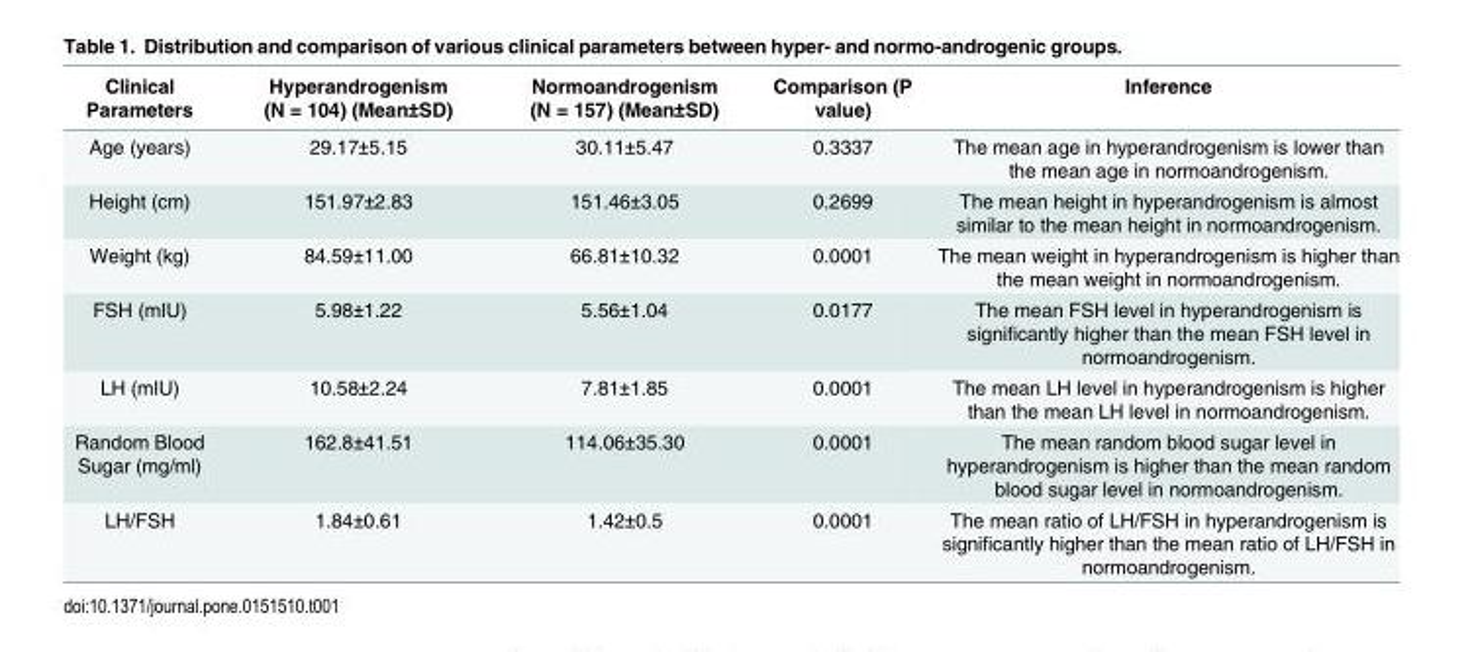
<table><thead><tr><td>Clinical Parameters</td><td>Hyperandrogenism (N = 104) (Mean±SD)</td><td>Normoandrogenism (N = 157) (Mean±SD)</td><td>Comparison (P value)</td><td>Inference</td></tr></thead><tbody><tr><td>Age (years)</td><td>29.17±5.15</td><td>30.11±5.47</td><td>0.3337</td><td>The mean age in hyperandrogenism is lower than the mean age in normoandrogenism.</td></tr><tr><td>Height (cm)</td><td>151.97±2.83</td><td>151.46±3.05</td><td>0.2699</td><td>The mean height in hyperandrogenism is almost similar to the mean height in normoandrogenism.</td></tr><tr><td>Weight (kg)</td><td>84.59±11.00</td><td>66.81±10.32</td><td>0.0001</td><td>The mean weight in hyperandrogenism is higher than the mean weight in normoandrogenism.</td></tr><tr><td>FSH (mIU)</td><td>5.98±1.22</td><td>5.56±1.04</td><td>0.0177</td><td>The mean FSH level in hyperandrogenism is significantly higher than the mean FSH level in normoandrogenism.</td></tr><tr><td>LH (mIU)</td><td>10.58±2.24</td><td>7.81±1.85</td><td>0.0001</td><td>The mean LH level in hyperandrogenism is higher than the mean LH level in normoandrogenism.</td></tr><tr><td>Random Blood Sugar (mg/ml)</td><td>162.8±41.51</td><td>114.06±35.30</td><td>0.0001</td><td>The mean random blood sugar level in hyperandrogenism is higher than the mean random blood sugar level in normoandrogenism.</td></tr><tr><td>LH/FSH</td><td>1.84±0.61</td><td>1.42±0.5</td><td>0.0001</td><td>The mean ratio of LH/FSH in hyperandrogenism is significantly higher than the mean ratio of LH/FSH in normoandrogenism.</td></tr></tbody></table>